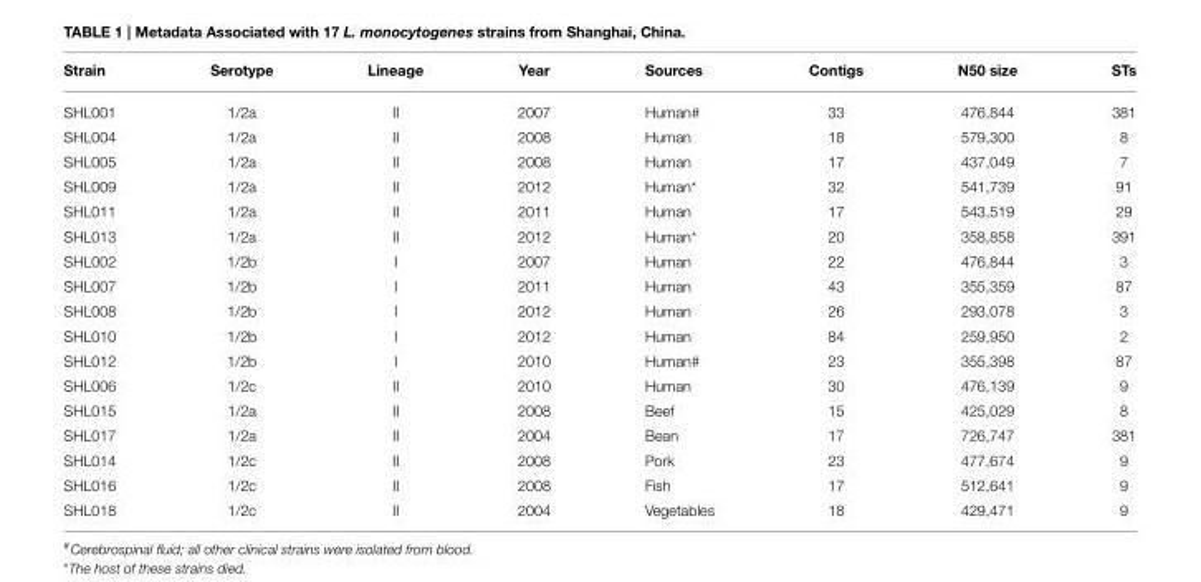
<table><thead><tr><td>Strain</td><td>Serotype</td><td>Lineage</td><td>Year</td><td>Sources</td><td>Contigs</td><td>N50 size</td><td>STs</td></tr></thead><tbody><tr><td>SHL001</td><td>1/2a</td><td>II</td><td>2007</td><td>Human#</td><td>33</td><td>476,844</td><td>381</td></tr><tr><td>SHL004</td><td>1/2a</td><td>II</td><td>2008</td><td>Human</td><td>18</td><td>579,300</td><td>8</td></tr><tr><td>SHL005</td><td>1/2a</td><td>II</td><td>2008</td><td>Human</td><td>17</td><td>437,049</td><td>7</td></tr><tr><td>SHL009</td><td>1/2a</td><td>II</td><td>2012</td><td>Human*</td><td>32</td><td>541,739</td><td>91</td></tr><tr><td>SHL011</td><td>1/2a</td><td>II</td><td>2011</td><td>Human</td><td>17</td><td>543,519</td><td>29</td></tr><tr><td>SHL013</td><td>1/2a</td><td>II</td><td>2012</td><td>Human*</td><td>20</td><td>358,858</td><td>391</td></tr><tr><td>SHL002</td><td>1/2b</td><td>I</td><td>2007</td><td>Human</td><td>22</td><td>476,844</td><td>3</td></tr><tr><td>SHL007</td><td>1/2b</td><td>I</td><td>2011</td><td>Human</td><td>43</td><td>355,359</td><td>87</td></tr><tr><td>SHL008</td><td>1/2b</td><td>I</td><td>2012</td><td>Human</td><td>26</td><td>293,078</td><td>3</td></tr><tr><td>SHL010</td><td>1/2b</td><td>I</td><td>2012</td><td>Human</td><td>84</td><td>259,950</td><td>2</td></tr><tr><td>SHL012</td><td>1/2b</td><td>I</td><td>2010</td><td>Human#</td><td>23</td><td>355,398</td><td>87</td></tr><tr><td>SHL006</td><td>1/2c</td><td>II</td><td>2010</td><td>Human</td><td>30</td><td>476,139</td><td>9</td></tr><tr><td>SHL015</td><td>1/2a</td><td>II</td><td>2008</td><td>Beef</td><td>15</td><td>425,029</td><td>8</td></tr><tr><td>SHL017</td><td>1/2a</td><td>II</td><td>2004</td><td>Bean</td><td>17</td><td>726,747</td><td>381</td></tr><tr><td>SHL014</td><td>1/2c</td><td>II</td><td>2008</td><td>Pork</td><td>23</td><td>477,674</td><td>9</td></tr><tr><td>SHL016</td><td>1/2c</td><td>II</td><td>2008</td><td>Fish</td><td>17</td><td>512,641</td><td>9</td></tr><tr><td>SHL018</td><td>1/2c</td><td>II</td><td>2004</td><td>Vegetables</td><td>18</td><td>429,471</td><td>9</td></tr></tbody></table>